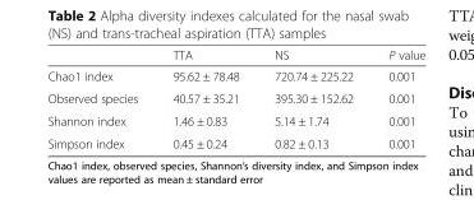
<table><thead><tr><td></td><td>TTA</td><td>NS</td><td>P value</td></tr></thead><tbody><tr><td>Chao1 index</td><td>95.62 ± 78.48</td><td>720.74 ± 225.22</td><td>0.001</td></tr><tr><td>Observed species</td><td>40.57 ± 35.21</td><td>395.30 ± 152.62</td><td>0.001</td></tr><tr><td>Shannon index</td><td>1.46 ± 0.83</td><td>5.14 ± 1.74</td><td>0.001</td></tr><tr><td>Simpson index</td><td>0.45 ± 0.24</td><td>0.82 ± 0.13</td><td>0.001</td></tr></tbody></table>